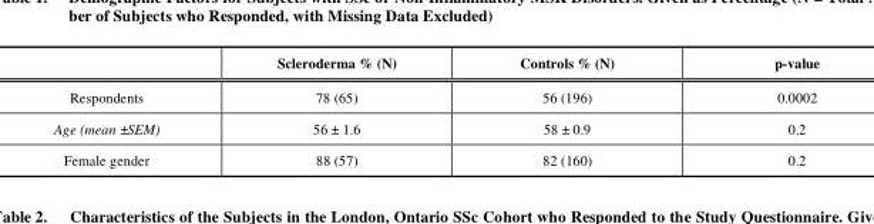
<table><thead><tr><td></td><td>Scleroderma % (N)</td><td>Controls % (N)</td><td>p-value</td></tr></thead><tbody><tr><td>Respondents</td><td>78 (65)</td><td>56 (196)</td><td>0.0002</td></tr><tr><td>Age (mean ±SEM)</td><td>56 ± 1.6</td><td>58 ± 0.9</td><td>0.2</td></tr><tr><td>Female gender</td><td>88 (57)</td><td>82 (160)</td><td>0.2</td></tr></tbody></table>